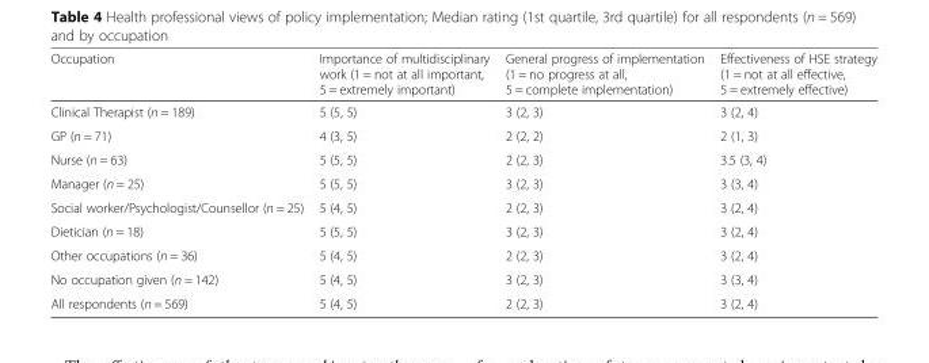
<table><thead><tr><td>Occupation</td><td>Importance of multidisciplinary work (1 = not at all important, 5 = extremely important)</td><td>General progress of implementation (1 = no progress at all, 5 = complete implementation)</td><td>Effectiveness of HSE strategy (1 = not at all effective, 5 = extremely effective)</td></tr></thead><tbody><tr><td>Clinical Therapist (n = 189)</td><td>5 (5, 5)</td><td>3 (2, 3)</td><td>3 (2, 4)</td></tr><tr><td>GP (n = 71)</td><td>4 (3, 5)</td><td>2 (2, 2)</td><td>2 (1, 3)</td></tr><tr><td>Nurse (n = 63)</td><td>5 (5, 5)</td><td>2 (2, 3)</td><td>3.5 (3, 4)</td></tr><tr><td>Manager (n = 25)</td><td>5 (5, 5)</td><td>3 (2, 3)</td><td>3 (3, 4)</td></tr><tr><td>Social worker/Psychologist/Counsellor (n = 25)</td><td>5 (4, 5)</td><td>2 (2, 3)</td><td>3 (2, 4)</td></tr><tr><td>Dietician (n = 18)</td><td>5 (5, 5)</td><td>3 (2, 3)</td><td>3 (2, 4)</td></tr><tr><td>Other occupations (n = 36)</td><td>5 (4, 5)</td><td>2 (2, 3)</td><td>3 (2, 4)</td></tr><tr><td>No occupation given (n = 142)</td><td>5 (4, 5)</td><td>3 (2, 3)</td><td>3 (3, 4)</td></tr><tr><td>All respondents (n = 569)</td><td>5 (4, 5)</td><td>2 (2, 3)</td><td>3 (2, 4)</td></tr></tbody></table>